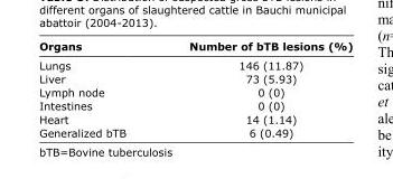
<table><thead><tr><td>Organs</td><td>Number of bTB lesions (%)</td></tr></thead><tbody><tr><td>Lungs</td><td>146 (11.87)</td></tr><tr><td>Liver</td><td>73 (5.93)</td></tr><tr><td>Lymph node</td><td>0 (0)</td></tr><tr><td>Intestines</td><td>0 (0)</td></tr><tr><td>Heart</td><td>14 (1.14)</td></tr><tr><td>Generalized bTB</td><td>6 (0.49)</td></tr></tbody></table>